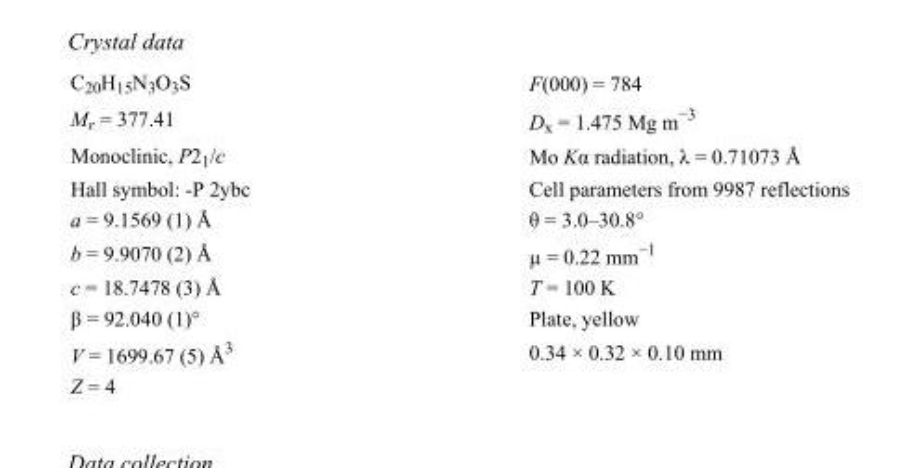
<table><tbody><tr><td>C<sub>20</sub>H<sub>15</sub>N<sub>3</sub>O<sub>3</sub>S</td><td>F(000) = 784</td></tr><tr><td>M<sub>r</sub> = 377.41</td><td>D<sub>x</sub> = 1.475 Mg m<sup>−3</sup></td></tr><tr><td>Monoclinic, P2<sub>1</sub>/c</td><td>Mo Kα radiation, λ = 0.71073 Å</td></tr><tr><td>Hall symbol: -P 2ybc</td><td>Cell parameters from 9987 reflections</td></tr><tr><td>a = 9.1569 (1) Å</td><td>θ = 3.0–30.8°</td></tr><tr><td>b = 9.9070 (2) Å</td><td>µ = 0.22 mm<sup>−1</sup></td></tr><tr><td>c = 18.7478 (3) Å</td><td>T = 100 K</td></tr><tr><td>β = 92.040 (1)°</td><td>Plate, yellow</td></tr><tr><td>V = 1699.67 (5) Å<sup>3</sup></td><td>0.34 × 0.32 × 0.10 mm</td></tr><tr><td>Z = 4</td><td></td></tr></tbody></table>